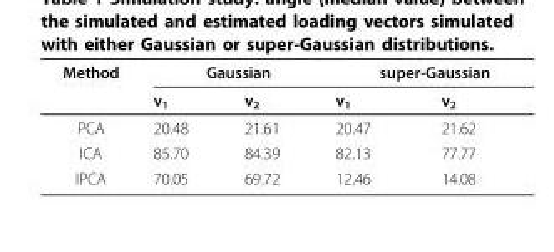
<table><thead><tr><td rowspan="2">Method</td><td colspan="2">Gaussian</td><td colspan="2">super-Gaussian</td></tr><tr><td>v<sub>1</sub></td><td>v<sub>2</sub></td><td>v<sub>1</sub></td><td>v<sub>2</sub></td></tr></thead><tbody><tr><td>PCA</td><td>20.48</td><td>21.61</td><td>20.47</td><td>21.62</td></tr><tr><td>ICA</td><td>85.70</td><td>84.39</td><td>82.13</td><td>77.77</td></tr><tr><td>IPCA</td><td>70.05</td><td>69.72</td><td>12.46</td><td>14.08</td></tr></tbody></table>